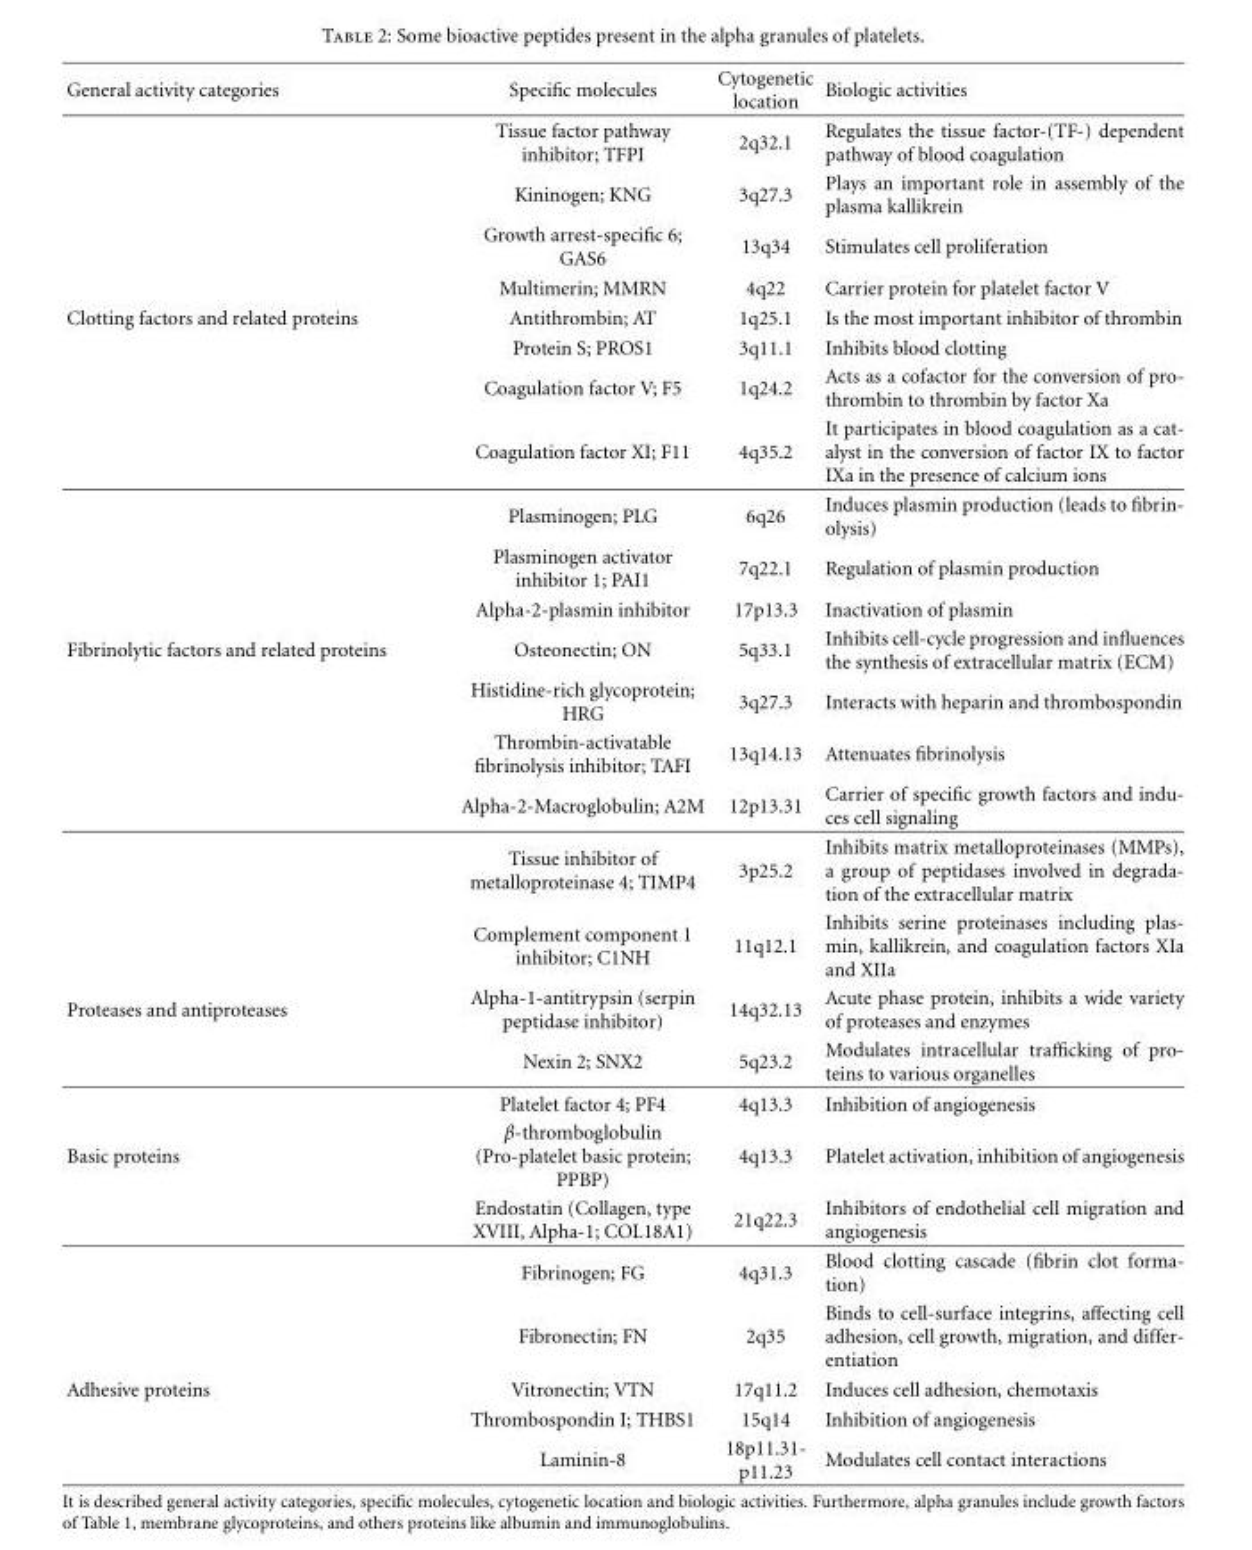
<table><thead><tr><td>General activity categories</td><td>Specific molecules</td><td>Cytogenetic location</td><td>Biologic activities</td></tr></thead><tbody><tr><td></td><td>Tissue factor pathway inhibitor; TFPI</td><td>2q32.1</td><td>Regulates the tissue factor-(TF-) dependent pathway of blood coagulation</td></tr><tr><td></td><td>Kininogen; KNG</td><td>3q27.3</td><td>Plays an important role in assembly of the plasma kallikrein</td></tr><tr><td></td><td>Growth arrest-specific 6; GAS6</td><td>13q34</td><td>Stimulates cell proliferation</td></tr><tr><td></td><td>Multimerin; MMRN</td><td>4q22</td><td>Carrier protein for platelet factor V</td></tr><tr><td rowspan="7">Clotting factors and related proteins</td><td>Antithrombin; AT</td><td>1q25.1</td><td>Is the most important inhibitor of thrombin</td></tr><tr><td>Protein S; PROS1</td><td>3q11.1</td><td>Inhibits blood clotting</td></tr><tr><td>Coagulation factor V; F5</td><td>1q24.2</td><td>Acts as a cofactor for the conversion of pro- thrombin to thrombin by factor Xa</td></tr><tr><td>Coagulation factor XI; F11</td><td>4q35.2</td><td>It participates in blood coagulation as a cat- alyst in the conversion of factor IX to factor IXa in the presence of calcium ions</td></tr><tr><td>Plasminogen; PLG</td><td>6q26</td><td>Induces plasmin production (leads to fibrin- olysis)</td></tr><tr><td>Plasminogen activator inhibitor 1; PAI1</td><td>7q22.1</td><td>Regulation of plasmin production</td></tr><tr><td>Alpha-2-plasmin inhibitor</td><td>17p13.3</td><td>Inactivation of plasmin</td></tr><tr><td rowspan="6">Fibrinolytic factors and related proteins</td><td>Osteonectin; ON</td><td>5q33.1</td><td>Inhibits cell-cycle progression and influences the synthesis of extracellular matrix (ECM)</td></tr><tr><td>Histidine-rich glycoprotein; HRG</td><td>3q27.3</td><td>Interacts with heparin and thrombospondin</td></tr><tr><td>Thrombin-activatable fibrinolysis inhibitor; TAFI</td><td>13q14.13</td><td>Attenuates fibrinolysis</td></tr><tr><td>Alpha-2-Macroglobulin; A2M</td><td>12p13.31</td><td>Carrier of specific growth factors and indu- ces cell signaling</td></tr><tr><td>Tissue inhibitor of metalloproteinase 4; TIMP4</td><td>3p25.2</td><td>Inhibits matrix metalloproteinases (MMPs), a group of peptidases involved in degrada- tion of the extracellular matrix</td></tr><tr><td>Complement component 1 inhibitor; C1NH</td><td>11q12.1</td><td>Inhibits serine proteinases including plas- min, kallikrein, and coagulation factors XIa and XIIa</td></tr><tr><td rowspan="3">Proteases and antiproteases</td><td>Alpha-1-antitrypsin (serpin peptidase inhibitor)</td><td>14q32.13</td><td>Acute phase protein, inhibits a wide variety of proteases and enzymes</td></tr><tr><td>Nexin 2; SNX2</td><td>5q23.2</td><td>Modulates intracellular trafficking of pro- teins to various organelles</td></tr><tr><td>Platelet factor 4; PF4</td><td>4q13.3</td><td>Inhibition of angiogenesis</td></tr><tr><td rowspan="4">Basic proteins</td><td>β-thromboglobulin (Pro-platelet basic protein; PPBP)</td><td>4q13.3</td><td>Platelet activation, inhibition of angiogenesis</td></tr><tr><td>Endostatin (Collagen, type XVIII, Alpha-1; COL18A1)</td><td>21q22.3</td><td>Inhibitors of endothelial cell migration and angiogenesis</td></tr><tr><td>Fibrinogen; FG</td><td>4q31.3</td><td>Blood clotting cascade (fibrin clot forma- tion)</td></tr><tr><td>Fibronectin; FN</td><td>2q35</td><td>Binds to cell-surface integrins, affecting cell adhesion, cell growth, migration, and differ- entiation</td></tr><tr><td rowspan="3">Adhesive proteins</td><td>Vitronectin; VTN</td><td>17q11.2</td><td>Induces cell adhesion, chemotaxis</td></tr><tr><td>Thrombospondin I; THBS1</td><td>15q14</td><td>Inhibition of angiogenesis</td></tr><tr><td>Laminin-8</td><td>18p11.31- p11.23</td><td>Modulates cell contact interactions</td></tr></tbody></table>